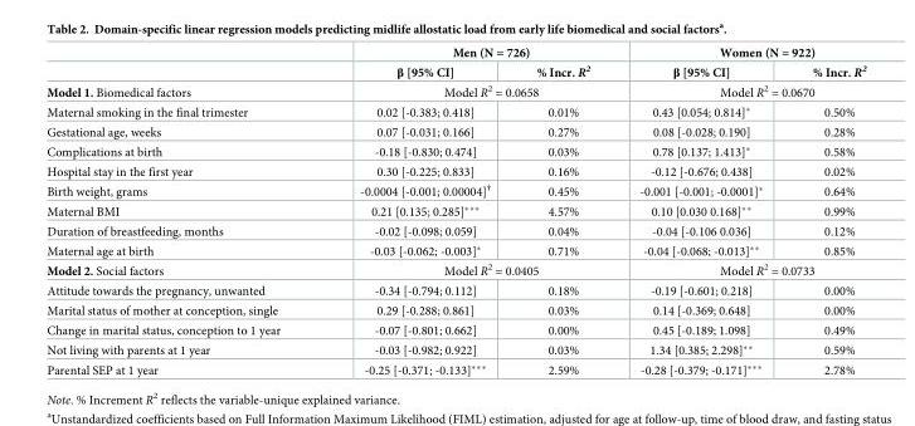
<table><thead><tr><td rowspan="2"></td><td colspan="2">Men (N = 726)</td><td colspan="2">Women (N = 922)</td></tr><tr><td>β [95% CI]</td><td>% Incr. R<sup>2</sup></td><td>β [95% CI]</td><td>% Incr. R<sup>2</sup></td></tr></thead><tbody><tr><td>Model 1. Biomedical factors</td><td colspan="2">Model R<sup>2</sup> = 0.0658</td><td colspan="2">Model R<sup>2</sup> = 0.0670</td></tr><tr><td>Maternal smoking in the final trimester</td><td>0.02 [-0.383; 0.418]</td><td>0.01%</td><td>0.43 [0.054; 0.814]*</td><td>0.50%</td></tr><tr><td>Gestational age, weeks</td><td>0.07 [-0.031; 0.166]</td><td>0.27%</td><td>0.08 [-0.028; 0.190]</td><td>0.28%</td></tr><tr><td>Complications at birth</td><td>-0.18 [-0.830; 0.474]</td><td>0.03%</td><td>0.78 [0.137; 1.413]*</td><td>0.58%</td></tr><tr><td>Hospital stay in the first year</td><td>0.30 [-0.225; 0.833]</td><td>0.16%</td><td>-0.12 [-0.676; 0.438]</td><td>0.02%</td></tr><tr><td>Birth weight, grams</td><td>-0.0004 [-0.001; 0.00004]<sup>†</sup></td><td>0.45%</td><td>-0.001 [-0.001; -0.0001]*</td><td>0.64%</td></tr><tr><td>Maternal BMI</td><td>0.21 [0.135; 0.285]***</td><td>4.57%</td><td>0.10 [0.030 0.168]**</td><td>0.99%</td></tr><tr><td>Duration of breastfeeding, months</td><td>-0.02 [-0.098; 0.059]</td><td>0.04%</td><td>-0.04 [-0.106 0.036]</td><td>0.12%</td></tr><tr><td>Maternal age at birth</td><td>-0.03 [-0.062; -0.003]*</td><td>0.71%</td><td>-0.04 [-0.068; -0.013]**</td><td>0.85%</td></tr><tr><td>Model 2. Social factors</td><td colspan="2">Model R<sup>2</sup> = 0.0405</td><td colspan="2">Model R<sup>2</sup> = 0.0733</td></tr><tr><td>Attitude towards the pregnancy, unwanted</td><td>-0.34 [-0.794; 0.112]</td><td>0.18%</td><td>-0.19 [-0.601; 0.218]</td><td>0.00%</td></tr><tr><td>Marital status of mother at conception, single</td><td>0.29 [-0.288; 0.861]</td><td>0.03%</td><td>0.14 [-0.369; 0.648]</td><td>0.00%</td></tr><tr><td>Change in marital status, conception to 1 year</td><td>-0.07 [-0.801; 0.662]</td><td>0.00%</td><td>0.45 [-0.189; 1.098]</td><td>0.49%</td></tr><tr><td>Not living with parents at 1 year</td><td>-0.03 [-0.982; 0.922]</td><td>0.03%</td><td>1.34 [0.385; 2.298]**</td><td>0.59%</td></tr><tr><td>Parental SEP at 1 year</td><td>-0.25 [-0.371; -0.133]***</td><td>2.59%</td><td>-0.28 [-0.379; -0.171]***</td><td>2.78%</td></tr></tbody></table>